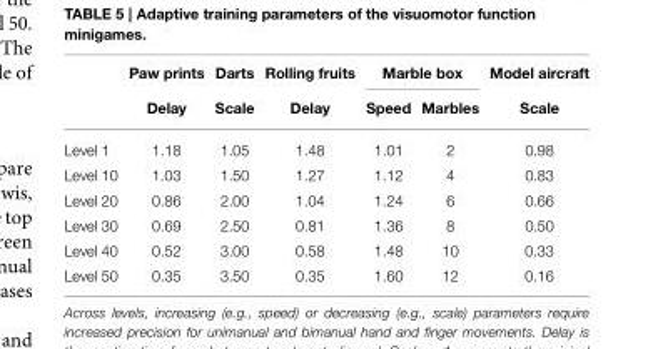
<table><thead><tr><td rowspan="2"></td><td rowspan="2">Paw prints Delay</td><td rowspan="2">Darts Scale</td><td rowspan="2">Rolling fruits Delay</td><td colspan="2">Marble box</td><td rowspan="2">Model aircraft Scale</td></tr><tr><td>Speed</td><td>Marbles</td></tr></thead><tbody><tr><td>Level 1</td><td>1.18</td><td>1.05</td><td>1.48</td><td>1.01</td><td>2</td><td>0.98</td></tr><tr><td>Level 10</td><td>1.03</td><td>1.50</td><td>1.27</td><td>1.12</td><td>4</td><td>0.83</td></tr><tr><td>Level 20</td><td>0.86</td><td>2.00</td><td>1.04</td><td>1.24</td><td>6</td><td>0.66</td></tr><tr><td>Level 30</td><td>0.69</td><td>2.50</td><td>0.81</td><td>1.36</td><td>8</td><td>0.50</td></tr><tr><td>Level 40</td><td>0.52</td><td>3.00</td><td>0.58</td><td>1.48</td><td>10</td><td>0.33</td></tr><tr><td>Level 50</td><td>0.35</td><td>3.50</td><td>0.35</td><td>1.60</td><td>12</td><td>0.16</td></tr></tbody></table>